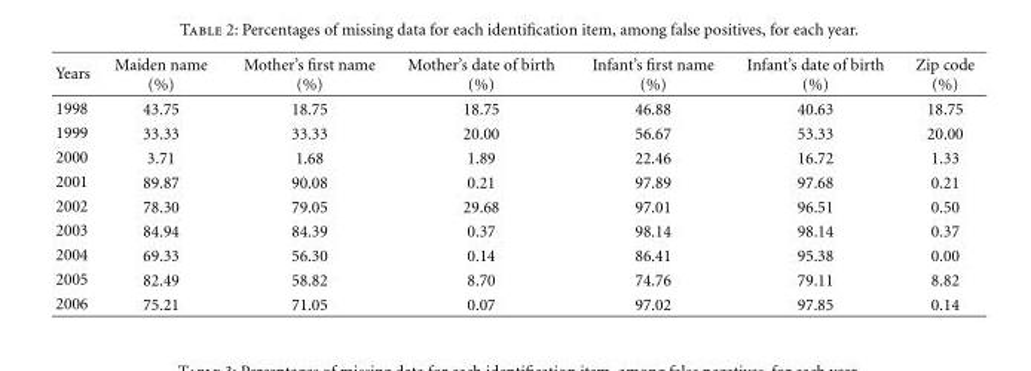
<table><thead><tr><td>Years</td><td>Maiden name (%)</td><td>Mother’s first name (%)</td><td>Mother’s date of birth (%)</td><td>Infant’s first name (%)</td><td>Infant’s date of birth (%)</td><td>Zip code (%)</td></tr></thead><tbody><tr><td>1998</td><td>43.75</td><td>18.75</td><td>18.75</td><td>46.88</td><td>40.63</td><td>18.75</td></tr><tr><td>1999</td><td>33.33</td><td>33.33</td><td>20.00</td><td>56.67</td><td>53.33</td><td>20.00</td></tr><tr><td>2000</td><td>3.71</td><td>1.68</td><td>1.89</td><td>22.46</td><td>16.72</td><td>1.33</td></tr><tr><td>2001</td><td>89.87</td><td>90.08</td><td>0.21</td><td>97.89</td><td>97.68</td><td>0.21</td></tr><tr><td>2002</td><td>78.30</td><td>79.05</td><td>29.68</td><td>97.01</td><td>96.51</td><td>0.50</td></tr><tr><td>2003</td><td>84.94</td><td>84.39</td><td>0.37</td><td>98.14</td><td>98.14</td><td>0.37</td></tr><tr><td>2004</td><td>69.33</td><td>56.30</td><td>0.14</td><td>86.41</td><td>95.38</td><td>0.00</td></tr><tr><td>2005</td><td>82.49</td><td>58.82</td><td>8.70</td><td>74.76</td><td>79.11</td><td>8.82</td></tr><tr><td>2006</td><td>75.21</td><td>71.05</td><td>0.07</td><td>97.02</td><td>97.85</td><td>0.14</td></tr></tbody></table>